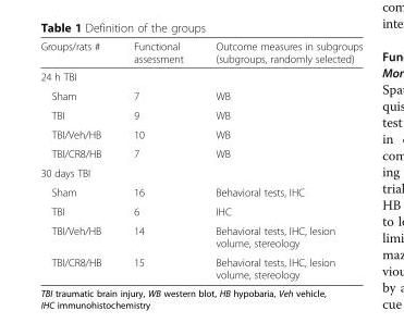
<table><thead><tr><td>Groups/rats #</td><td>Functional assessment</td><td>Outcome measures in subgroups (subgroups, randomly selected)</td></tr></thead><tbody><tr><td colspan="3">24 h TBI</td></tr><tr><td>Sham</td><td>7</td><td>WB</td></tr><tr><td>TBI</td><td>9</td><td>WB</td></tr><tr><td>TBI/Veh/HB</td><td>10</td><td>WB</td></tr><tr><td>TBI/CR8/HB</td><td>7</td><td>WB</td></tr><tr><td colspan="3">30 days TBI</td></tr><tr><td>Sham</td><td>16</td><td>Behavioral tests, IHC</td></tr><tr><td>TBI</td><td>6</td><td>IHC</td></tr><tr><td>TBI/Veh/HB</td><td>14</td><td>Behavioral tests, IHC, lesion volume, stereology</td></tr><tr><td>TBI/CR8/HB</td><td>15</td><td>Behavioral tests, IHC, lesion volume, stereology</td></tr></tbody></table>